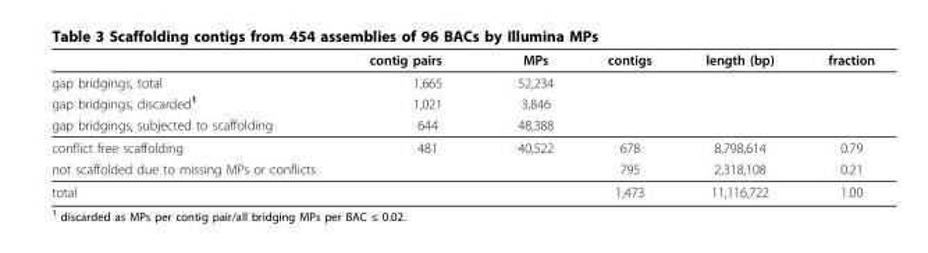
<table><thead><tr><td></td><td>contig pairs</td><td>MPs</td><td>contigs</td><td>length (bp)</td><td>fraction</td></tr></thead><tbody><tr><td>gap bridgings, total</td><td>1,665</td><td>52,234</td><td></td><td></td><td></td></tr><tr><td>gap bridgings, discarded<sup>1</sup></td><td>1,021</td><td>3,846</td><td></td><td></td><td></td></tr><tr><td>gap bridgings, subjected to scaffolding</td><td>644</td><td>48,388</td><td></td><td></td><td></td></tr><tr><td>conflict free scaffolding</td><td>481</td><td>40,522</td><td>678</td><td>8,798,614</td><td>0.79</td></tr><tr><td>not scaffolded due to missing MPs or conflicts</td><td></td><td></td><td>795</td><td>2,318,108</td><td>0.21</td></tr><tr><td>total</td><td></td><td></td><td>1,473</td><td>11,116,722</td><td>1.00</td></tr></tbody></table>